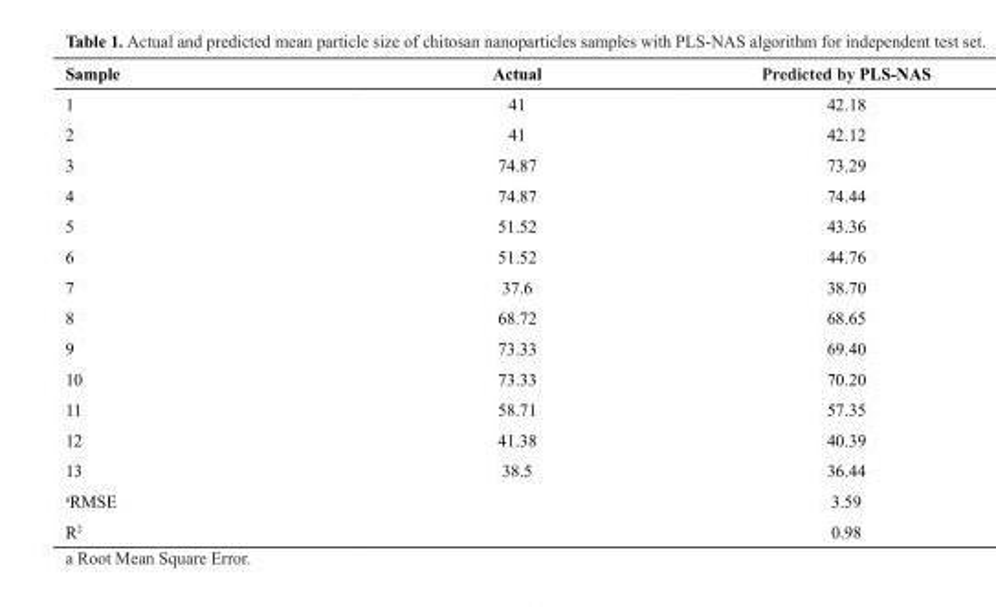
<table><thead><tr><td>Sample</td><td>Actual</td><td>Predicted by PLS-NAS</td></tr></thead><tbody><tr><td>1</td><td>41</td><td>42.18</td></tr><tr><td>2</td><td>41</td><td>42.12</td></tr><tr><td>3</td><td>74.87</td><td>73.29</td></tr><tr><td>4</td><td>74.87</td><td>74.44</td></tr><tr><td>5</td><td>51.52</td><td>43.36</td></tr><tr><td>6</td><td>51.52</td><td>44.76</td></tr><tr><td>7</td><td>37.6</td><td>38.70</td></tr><tr><td>8</td><td>68.72</td><td>68.65</td></tr><tr><td>9</td><td>73.33</td><td>69.40</td></tr><tr><td>10</td><td>73.33</td><td>70.20</td></tr><tr><td>11</td><td>58.71</td><td>57.35</td></tr><tr><td>12</td><td>41.38</td><td>40.39</td></tr><tr><td>13</td><td>38.5</td><td>36.44</td></tr><tr><td>aRMSE</td><td></td><td>3.59</td></tr><tr><td>R<sup>2</sup></td><td></td><td>0.98</td></tr></tbody></table>